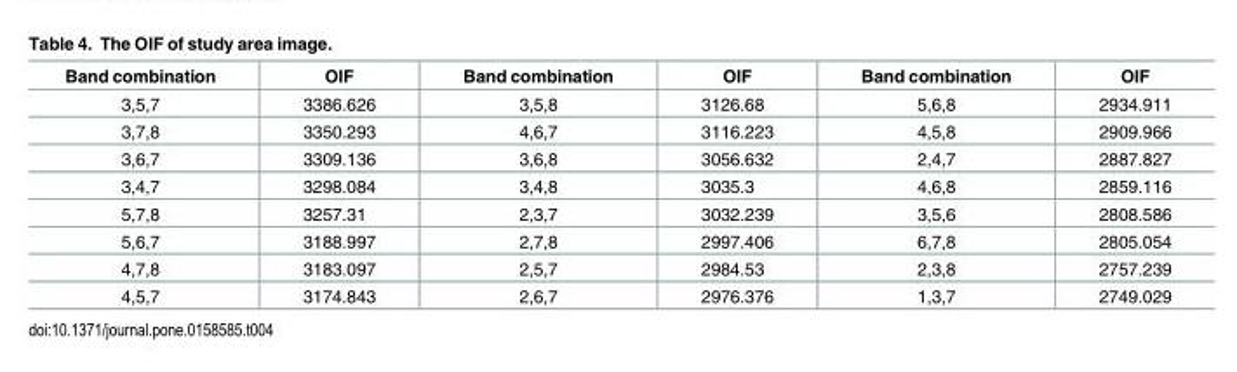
<table><thead><tr><td>Band combination</td><td>OIF</td><td>Band combination</td><td>OIF</td><td>Band combination</td><td>OIF</td></tr></thead><tbody><tr><td>3,5,7</td><td>3386.626</td><td>3,5,8</td><td>3126.68</td><td>5,6,8</td><td>2934.911</td></tr><tr><td>3,7,8</td><td>3350.293</td><td>4,6,7</td><td>3116.223</td><td>4,5,8</td><td>2909.966</td></tr><tr><td>3,6,7</td><td>3309.136</td><td>3,6,8</td><td>3056.632</td><td>2,4,7</td><td>2887.827</td></tr><tr><td>3,4,7</td><td>3298.084</td><td>3,4,8</td><td>3035.3</td><td>4,6,8</td><td>2859.116</td></tr><tr><td>5,7,8</td><td>3257.31</td><td>2,3,7</td><td>3032.239</td><td>3,5,6</td><td>2808.586</td></tr><tr><td>5,6,7</td><td>3188.997</td><td>2,7,8</td><td>2997.406</td><td>6,7,8</td><td>2805.054</td></tr><tr><td>4,7,8</td><td>3183.097</td><td>2,5,7</td><td>2984.53</td><td>2,3,8</td><td>2757.239</td></tr><tr><td>4,5,7</td><td>3174.843</td><td>2,6,7</td><td>2976.376</td><td>1,3,7</td><td>2749.029</td></tr></tbody></table>